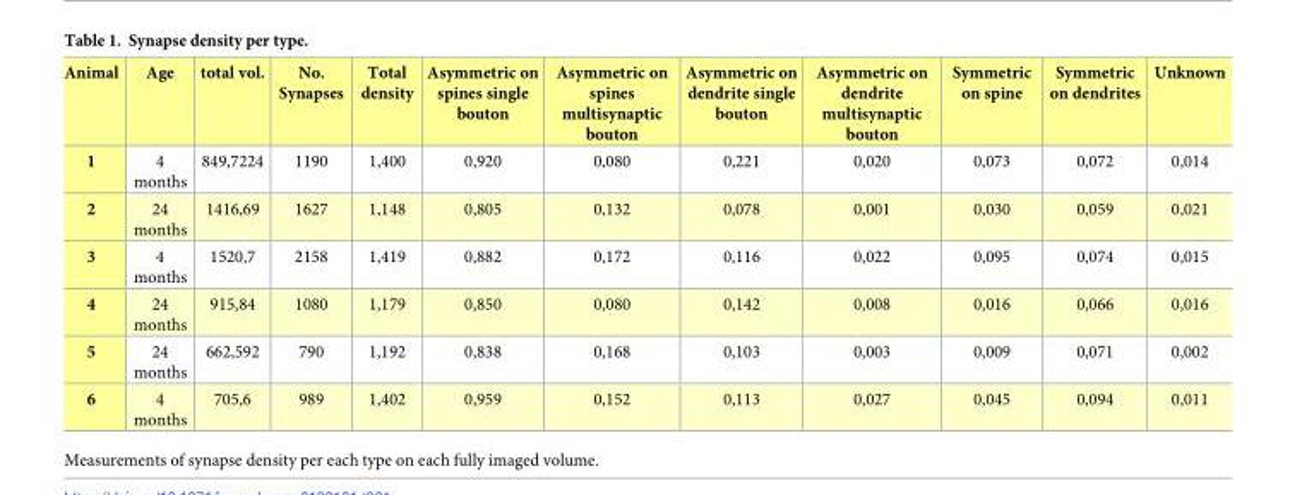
<table><thead><tr><td>Animal</td><td>Age</td><td>total vol.</td><td>No. Synapses</td><td>Total density</td><td>Asymmetric on spines single bouton</td><td>Asymmetric on spines multisynaptic bouton</td><td>Asymmetric on dendrite single bouton</td><td>Asymmetric on dendrite multisynaptic bouton</td><td>Symmetric on spine</td><td>Symmetric on dendrites</td><td>Unknown</td></tr></thead><tbody><tr><td>1</td><td>4 months</td><td>849,7224</td><td>1190</td><td>1,400</td><td>0,920</td><td>0,080</td><td>0,221</td><td>0,020</td><td>0,073</td><td>0,072</td><td>0,014</td></tr><tr><td>2</td><td>24 months</td><td>1416,69</td><td>1627</td><td>1,148</td><td>0,805</td><td>0,132</td><td>0,078</td><td>0,001</td><td>0,030</td><td>0,059</td><td>0,021</td></tr><tr><td>3</td><td>4 months</td><td>1520,7</td><td>2158</td><td>1,419</td><td>0,882</td><td>0,172</td><td>0,116</td><td>0,022</td><td>0,095</td><td>0,074</td><td>0,015</td></tr><tr><td>4</td><td>24 months</td><td>915,84</td><td>1080</td><td>1,179</td><td>0,850</td><td>0,080</td><td>0,142</td><td>0,008</td><td>0,016</td><td>0,066</td><td>0,016</td></tr><tr><td>5</td><td>24 months</td><td>662,592</td><td>790</td><td>1,192</td><td>0,838</td><td>0,168</td><td>0,103</td><td>0,003</td><td>0,009</td><td>0,071</td><td>0,002</td></tr><tr><td>6</td><td>4 months</td><td>705,6</td><td>989</td><td>1,402</td><td>0,959</td><td>0,152</td><td>0,113</td><td>0,027</td><td>0,045</td><td>0,094</td><td>0,011</td></tr></tbody></table>